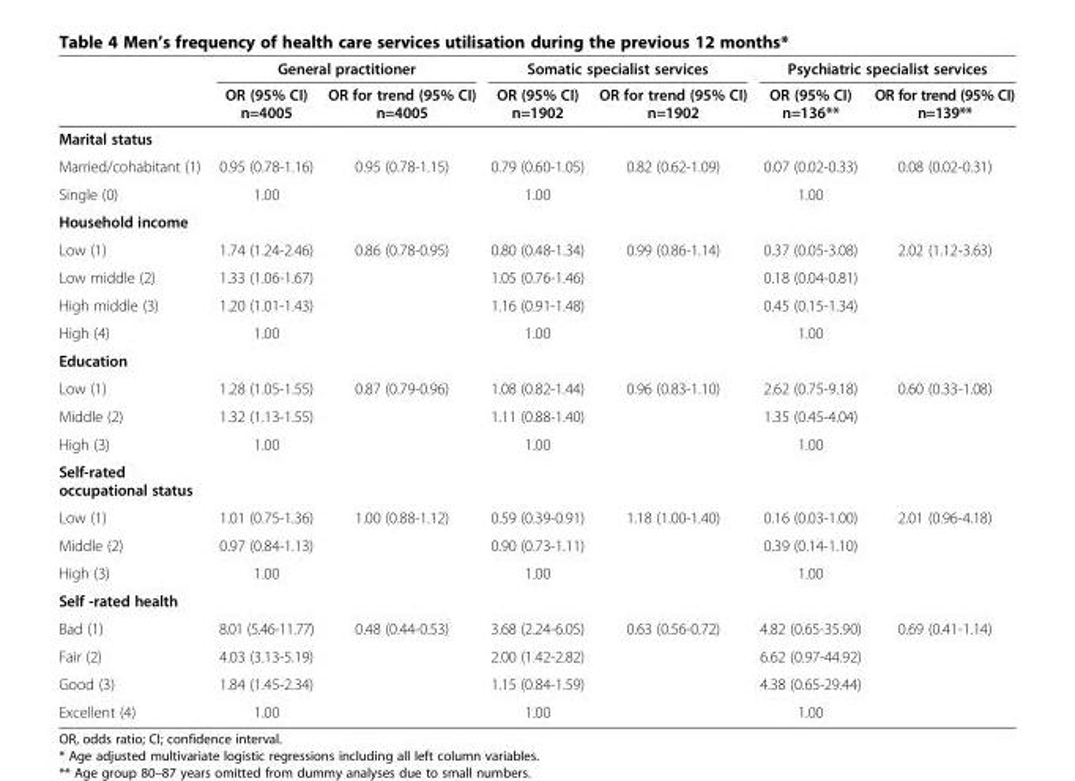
<table><thead><tr><td rowspan="2"></td><td colspan="2">General practitioner</td><td colspan="2">Somatic specialist services</td><td colspan="2">Psychiatric specialist services</td></tr><tr><td>OR (95% CI) n=4005</td><td>OR for trend (95% CI) n=4005</td><td>OR (95% CI) n=1902</td><td>OR for trend (95% CI) n=1902</td><td>OR (95% CI) n=136**</td><td>OR for trend (95% CI) n=139**</td></tr></thead><tbody><tr><td colspan="7">Marital status</td></tr><tr><td>Married/cohabitant (1)</td><td>0.95 (0.78-1.16)</td><td>0.95 (0.78-1.15)</td><td>0.79 (0.60-1.05)</td><td>0.82 (0.62-1.09)</td><td>0.07 (0.02-0.33)</td><td>0.08 (0.02-0.31)</td></tr><tr><td>Single (0)</td><td>1.00</td><td></td><td>1.00</td><td></td><td>1.00</td><td></td></tr><tr><td colspan="7">Household income</td></tr><tr><td>Low (1)</td><td>1.74 (1.24-2.46)</td><td>0.86 (0.78-0.95)</td><td>0.80 (0.48-1.34)</td><td>0.99 (0.86-1.14)</td><td>0.37 (0.05-3.08)</td><td>2.02 (1.12-3.63)</td></tr><tr><td>Low middle (2)</td><td>1.33 (1.06-1.67)</td><td></td><td>1.05 (0.76-1.46)</td><td></td><td>0.18 (0.04-0.81)</td><td></td></tr><tr><td>High middle (3)</td><td>1.20 (1.01-1.43)</td><td></td><td>1.16 (0.91-1.48)</td><td></td><td>0.45 (0.15-1.34)</td><td></td></tr><tr><td>High (4)</td><td>1.00</td><td></td><td>1.00</td><td></td><td>1.00</td><td></td></tr><tr><td colspan="7">Education</td></tr><tr><td>Low (1)</td><td>1.28 (1.05-1.55)</td><td>0.87 (0.79-0.96)</td><td>1.08 (0.82-1.44)</td><td>0.96 (0.83-1.10)</td><td>2.62 (0.75-9.18)</td><td>0.60 (0.33-1.08)</td></tr><tr><td>Middle (2)</td><td>1.32 (1.13-1.55)</td><td></td><td>1.11 (0.88-1.40)</td><td></td><td>1.35 (0.45-4.04)</td><td></td></tr><tr><td>High (3)</td><td>1.00</td><td></td><td>1.00</td><td></td><td>1.00</td><td></td></tr><tr><td colspan="7">Self-rated occupational status</td></tr><tr><td>Low (1)</td><td>1.01 (0.75-1.36)</td><td>1.00 (0.88-1.12)</td><td>0.59 (0.39-0.91)</td><td>1.18 (1.00-1.40)</td><td>0.16 (0.03-1.00)</td><td>2.01 (0.96-4.18)</td></tr><tr><td>Middle (2)</td><td>0.97 (0.84-1.13)</td><td></td><td>0.90 (0.73-1.11)</td><td></td><td>0.39 (0.14-1.10)</td><td></td></tr><tr><td>High (3)</td><td>1.00</td><td></td><td>1.00</td><td></td><td>1.00</td><td></td></tr><tr><td colspan="7">Self -rated health</td></tr><tr><td>Bad (1)</td><td>8.01 (5.46-11.77)</td><td>0.48 (0.44-0.53)</td><td>3.68 (2.24-6.05)</td><td>0.63 (0.56-0.72)</td><td>4.82 (0.65-35.90)</td><td>0.69 (0.41-1.14)</td></tr><tr><td>Fair (2)</td><td>4.03 (3.13-5.19)</td><td></td><td>2.00 (1.42-2.82)</td><td></td><td>6.62 (0.97-44.92)</td><td></td></tr><tr><td>Good (3)</td><td>1.84 (1.45-2.34)</td><td></td><td>1.15 (0.84-1.59)</td><td></td><td>4.38 (0.65-29.44)</td><td></td></tr><tr><td>Excellent (4)</td><td>1.00</td><td></td><td>1.00</td><td></td><td>1.00</td><td></td></tr></tbody></table>